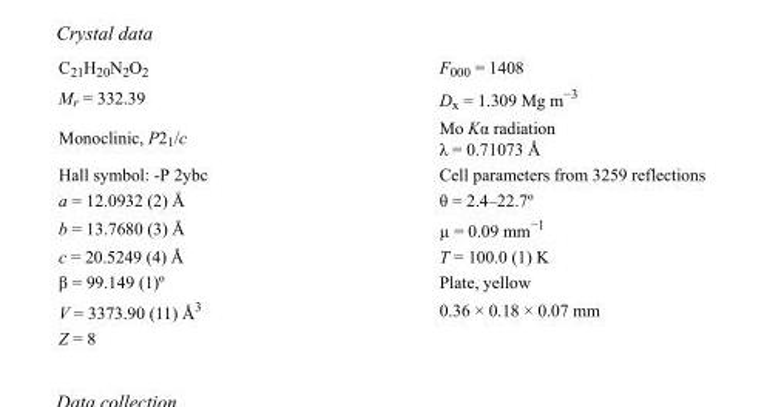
<table><tbody><tr><td>C<sub>21</sub>H<sub>20</sub>N<sub>2</sub>O<sub>2</sub></td><td>F<sub>000</sub> = 1408</td></tr><tr><td>M<sub>r</sub> = 332.39</td><td>D<sub>x</sub> = 1.309 Mg m<sup>−3</sup></td></tr><tr><td>Monoclinic, P2<sub>1</sub>/c</td><td>Mo Kα radiation λ = 0.71073 Å</td></tr><tr><td>Hall symbol: -P 2ybc</td><td>Cell parameters from 3259 reflections</td></tr><tr><td>a = 12.0932 (2) Å</td><td>θ = 2.4–22.7º</td></tr><tr><td>b = 13.7680 (3) Å</td><td>µ = 0.09 mm<sup>−1</sup></td></tr><tr><td>c = 20.5249 (4) Å</td><td>T = 100.0 (1) K</td></tr><tr><td>β = 99.149 (1)º</td><td>Plate, yellow</td></tr><tr><td>V = 3373.90 (11) Å<sup>3</sup></td><td>0.36 × 0.18 × 0.07 mm</td></tr><tr><td>Z = 8</td><td></td></tr></tbody></table>